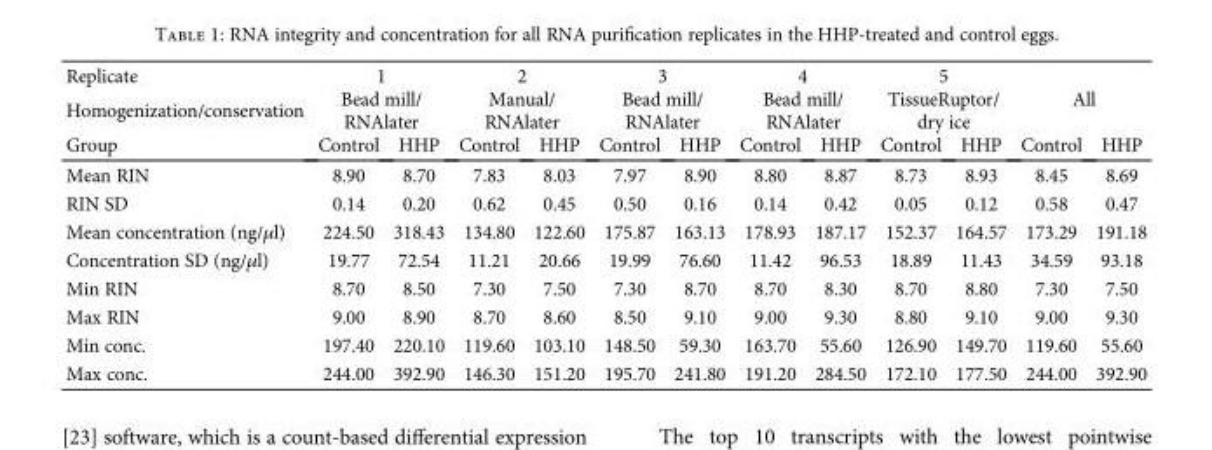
<table><thead><tr><td rowspan="3">Replicate Homogenization/conservation Group</td><td rowspan="2" colspan="2">1 Bead mill/ RNAlater</td><td rowspan="2" colspan="2">2 Manual/ RNAlater</td><td rowspan="2" colspan="2">3 Bead mill/ RNAlater</td><td rowspan="2" colspan="2">4 Bead mill/ RNAlater</td><td rowspan="2" colspan="2">5 TissueRuptor/ dry ice</td><td rowspan="2" colspan="2">All</td></tr><tr></tr><tr><td>Control</td><td>HHP</td><td>Control</td><td>HHP</td><td>Control</td><td>HHP</td><td>Control</td><td>HHP</td><td>Control</td><td>HHP</td><td>Control</td><td>HHP</td></tr></thead><tbody><tr><td>Mean RIN</td><td>8.90</td><td>8.70</td><td>7.83</td><td>8.03</td><td>7.97</td><td>8.90</td><td>8.80</td><td>8.87</td><td>8.73</td><td>8.93</td><td>8.45</td><td>8.69</td></tr><tr><td>RIN SD</td><td>0.14</td><td>0.20</td><td>0.62</td><td>0.45</td><td>0.50</td><td>0.16</td><td>0.14</td><td>0.42</td><td>0.05</td><td>0.12</td><td>0.58</td><td>0.47</td></tr><tr><td>Mean concentration (ng/μl)</td><td>224.50</td><td>318.43</td><td>134.80</td><td>122.60</td><td>175.87</td><td>163.13</td><td>178.93</td><td>187.17</td><td>152.37</td><td>164.57</td><td>173.29</td><td>191.18</td></tr><tr><td>Concentration SD (ng/μl)</td><td>19.77</td><td>72.54</td><td>11.21</td><td>20.66</td><td>19.99</td><td>76.60</td><td>11.42</td><td>96.53</td><td>18.89</td><td>11.43</td><td>34.59</td><td>93.18</td></tr><tr><td>Min RIN</td><td>8.70</td><td>8.50</td><td>7.30</td><td>7.50</td><td>7.30</td><td>8.70</td><td>8.70</td><td>8.30</td><td>8.70</td><td>8.80</td><td>7.30</td><td>7.50</td></tr><tr><td>Max RIN</td><td>9.00</td><td>8.90</td><td>8.70</td><td>8.60</td><td>8.50</td><td>9.10</td><td>9.00</td><td>9.30</td><td>8.80</td><td>9.10</td><td>9.00</td><td>9.30</td></tr><tr><td>Min conc.</td><td>197.40</td><td>220.10</td><td>119.60</td><td>103.10</td><td>148.50</td><td>59.30</td><td>163.70</td><td>55.60</td><td>126.90</td><td>149.70</td><td>119.60</td><td>55.60</td></tr><tr><td>Max conc.</td><td>244.00</td><td>392.90</td><td>146.30</td><td>151.20</td><td>195.70</td><td>241.80</td><td>191.20</td><td>284.50</td><td>172.10</td><td>177.50</td><td>244.00</td><td>392.90</td></tr></tbody></table>